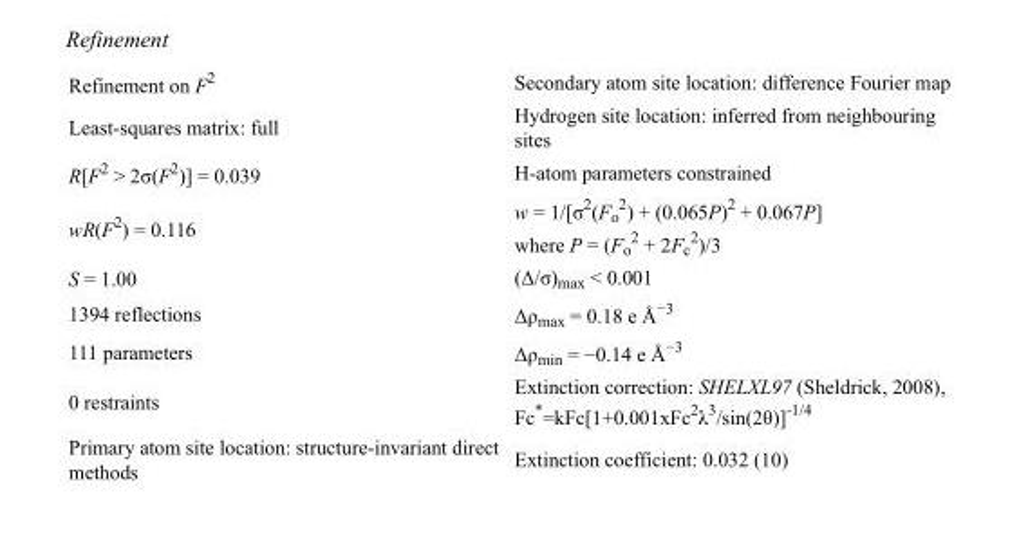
<table><tbody><tr><td>Refinement on F<sup>2</sup></td><td>Secondary atom site location: difference Fourier map</td></tr><tr><td>Least-squares matrix: full</td><td>Hydrogen site location: inferred from neighbouring sites</td></tr><tr><td>R[F<sup>2</sup> &gt; 2σ(F<sup>2</sup>)] = 0.039</td><td>H-atom parameters constrained</td></tr><tr><td>wR(F<sup>2</sup>) = 0.116</td><td>w = 1/[σ<sup>2</sup>(F<sub>o</sub> <sup>2</sup>) + (0.065P)<sup>2</sup> + 0.067P] where P = (F<sub>o</sub> <sup>2</sup> + 2F<sub>c</sub> <sup>2</sup>)/3</td></tr><tr><td>S = 1.00</td><td>(Δ/σ)<sub>max</sub> &lt; 0.001</td></tr><tr><td>1394 reflections</td><td>Δρ<sub>max</sub> = 0.18 e Å<sup>−3</sup></td></tr><tr><td>111 parameters</td><td>Δρmin = −0.14 e Å−3</td></tr><tr><td>0 restraints</td><td>Extinction correction: SHELXL97 (Sheldrick, 2008), Fc*=kFc[1+0.001xFc<sup>2</sup>λ<sup>3</sup>/sin(2θ)]<sup>-1/4</sup></td></tr><tr><td>Primary atom site location: structure-invariant direct methods</td><td>Extinction coefficient: 0.032 (10)</td></tr></tbody></table>